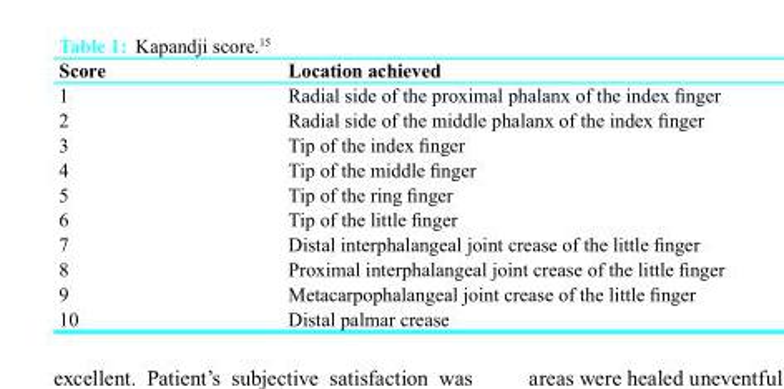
<table><thead><tr><td>Score</td><td>Location achieved</td></tr></thead><tbody><tr><td>1</td><td>Radial side of the proximal phalanx of the index finger</td></tr><tr><td>2</td><td>Radial side of the middle phalanx of the index finger</td></tr><tr><td>3</td><td>Tip of the index finger</td></tr><tr><td>4</td><td>Tip of the middle finger</td></tr><tr><td>5</td><td>Tip of the ring finger</td></tr><tr><td>6</td><td>Tip of the little finger</td></tr><tr><td>7</td><td>Distal interphalangeal joint crease of the little finger</td></tr><tr><td>8</td><td>Proximal interphalangeal joint crease of the little finger</td></tr><tr><td>9</td><td>Metacarpophalangeal joint crease of the little finger</td></tr><tr><td>10</td><td>Distal palmar crease</td></tr></tbody></table>